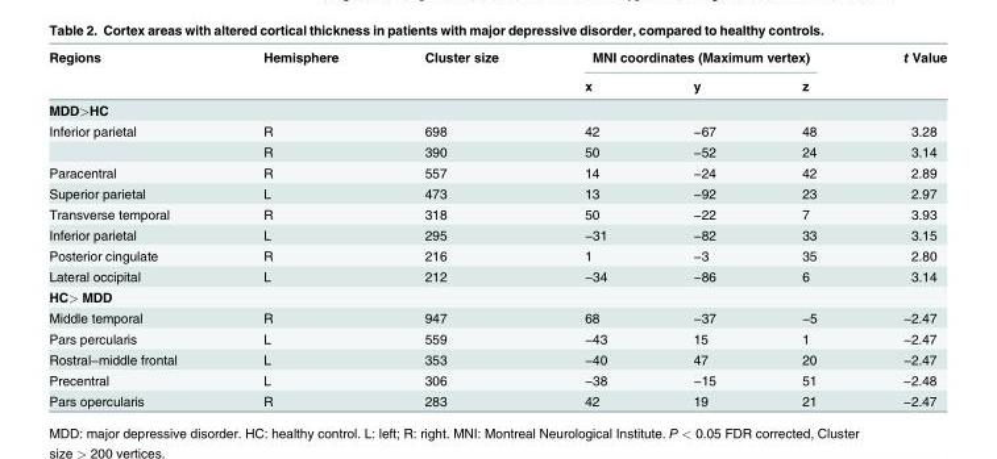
<table><thead><tr><td rowspan="2">Regions</td><td rowspan="2">Hemisphere</td><td rowspan="2">Cluster size</td><td colspan="3">MNI coordinates (Maximum vertex)</td><td rowspan="2">t Value</td></tr><tr><td>x</td><td>y</td><td>z</td></tr></thead><tbody><tr><td colspan="7">MDD&gt;HC</td></tr><tr><td rowspan="2">Inferior parietal</td><td>R</td><td>698</td><td>42</td><td>−67</td><td>48</td><td>3.28</td></tr><tr><td>R</td><td>390</td><td>50</td><td>−52</td><td>24</td><td>3.14</td></tr><tr><td>Paracentral</td><td>R</td><td>557</td><td>14</td><td>−24</td><td>42</td><td>2.89</td></tr><tr><td>Superior parietal</td><td>L</td><td>473</td><td>13</td><td>−92</td><td>23</td><td>2.97</td></tr><tr><td>Transverse temporal</td><td>R</td><td>318</td><td>50</td><td>−22</td><td>7</td><td>3.93</td></tr><tr><td>Inferior parietal</td><td>L</td><td>295</td><td>−31</td><td>−82</td><td>33</td><td>3.15</td></tr><tr><td>Posterior cingulate</td><td>R</td><td>216</td><td>1</td><td>−3</td><td>35</td><td>2.80</td></tr><tr><td>Lateral occipital</td><td>L</td><td>212</td><td>−34</td><td>−86</td><td>6</td><td>3.14</td></tr><tr><td colspan="7">HC&gt; MDD</td></tr><tr><td>Middle temporal</td><td>R</td><td>947</td><td>68</td><td>−37</td><td>−5</td><td>−2.47</td></tr><tr><td>Pars percularis</td><td>L</td><td>559</td><td>−43</td><td>15</td><td>1</td><td>−2.47</td></tr><tr><td>Rostral−middle frontal</td><td>L</td><td>353</td><td>−40</td><td>47</td><td>20</td><td>−2.47</td></tr><tr><td>Precentral</td><td>L</td><td>306</td><td>−38</td><td>−15</td><td>51</td><td>−2.48</td></tr><tr><td>Pars opercularis</td><td>R</td><td>283</td><td>42</td><td>19</td><td>21</td><td>−2.47</td></tr></tbody></table>